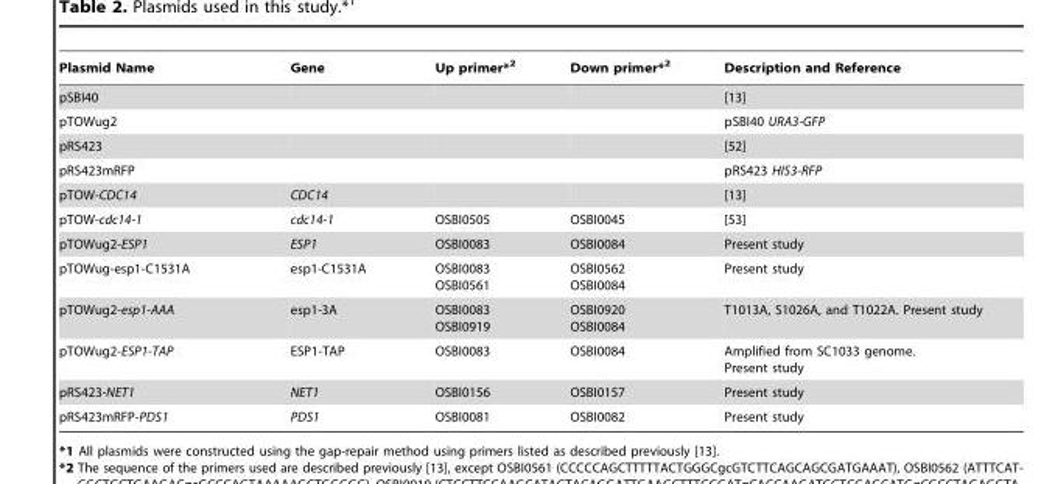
<table><thead><tr><td>Plasmid Name</td><td>Gene</td><td>Up primer*2</td><td>Down primer*2</td><td>Description and Reference</td></tr></thead><tbody><tr><td>pSBI40</td><td></td><td></td><td></td><td>[13]</td></tr><tr><td>pTOWug2</td><td></td><td></td><td></td><td>pSBI40 URA3-GFP</td></tr><tr><td>pRS423</td><td></td><td></td><td></td><td>[52]</td></tr><tr><td>pRS423mRFP</td><td></td><td></td><td></td><td>pRS423 HIS3-RFP</td></tr><tr><td>pTOW-CDC14</td><td>CDC14</td><td></td><td></td><td>[13]</td></tr><tr><td>pTOW-cdc14-1</td><td>cdc14-1</td><td>OSBI0505</td><td>OSBI0045</td><td>[53]</td></tr><tr><td>pTOWug2-ESP1</td><td>ESP1</td><td>OSBI0083</td><td>OSBI0084</td><td>Present study</td></tr><tr><td>pTOWug-esp1-C1531A</td><td>esp1-C1531A</td><td>OSBI0083 OSBI0561</td><td>OSBI0562 OSBI0084</td><td>Present study</td></tr><tr><td>pTOWug2-esp1-AAA</td><td>esp1-3A</td><td>OSBI0083 OSBI0919</td><td>OSBI0920 OSBI0084</td><td>T1013A, S1026A, and T1022A. Present study</td></tr><tr><td>pTOWug2-ESP1-TAP</td><td>ESP1-TAP</td><td>OSBI0083</td><td>OSBI0084</td><td>Amplified from SC1033 genome. Present study</td></tr><tr><td>pRS423-NET1</td><td>NET1</td><td>OSBI0156</td><td>OSBI0157</td><td>Present study</td></tr><tr><td>pRS423mRFP-PDS1</td><td>PDS1</td><td>OSBI0081</td><td>OSBI0082</td><td>Present study</td></tr></tbody></table>